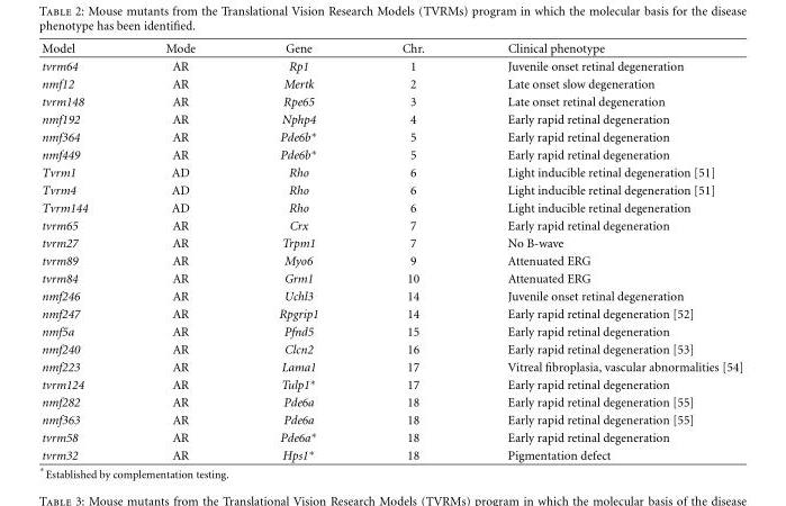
<table><thead><tr><td>Model</td><td>Mode</td><td>Gene</td><td>Chr.</td><td>Clinical phenotype</td></tr></thead><tbody><tr><td>tvrm64</td><td>AR</td><td>Rp1</td><td>1</td><td>Juvenile onset retinal degeneration</td></tr><tr><td>nmf12</td><td>AR</td><td>Mertk</td><td>2</td><td>Late onset slow degeneration</td></tr><tr><td>tvrm148</td><td>AR</td><td>Rpe65</td><td>3</td><td>Late onset retinal degeneration</td></tr><tr><td>nmf192</td><td>AR</td><td>Nphp4</td><td>4</td><td>Early rapid retinal degeneration</td></tr><tr><td>nmf364</td><td>AR</td><td>Pde6b∗</td><td>5</td><td>Early rapid retinal degeneration</td></tr><tr><td>nmf449</td><td>AR</td><td>Pde6b∗</td><td>5</td><td>Early rapid retinal degeneration</td></tr><tr><td>Tvrm1</td><td>AD</td><td>Rho</td><td>6</td><td>Light inducible retinal degeneration [51]</td></tr><tr><td>Tvrm4</td><td>AD</td><td>Rho</td><td>6</td><td>Light inducible retinal degeneration [51]</td></tr><tr><td>Tvrm144</td><td>AD</td><td>Rho</td><td>6</td><td>Light inducible retinal degeneration</td></tr><tr><td>tvrm65</td><td>AR</td><td>Crx</td><td>7</td><td>Early rapid retinal degeneration</td></tr><tr><td>tvrm27</td><td>AR</td><td>Trpm1</td><td>7</td><td>No B-wave</td></tr><tr><td>tvrm89</td><td>AR</td><td>Myo6</td><td>9</td><td>Attenuated ERG</td></tr><tr><td>tvrm84</td><td>AR</td><td>Grm1</td><td>10</td><td>Attenuated ERG</td></tr><tr><td>nmf246</td><td>AR</td><td>Uchl3</td><td>14</td><td>Juvenile onset retinal degeneration</td></tr><tr><td>nmf247</td><td>AR</td><td>Rpgrip1</td><td>14</td><td>Early rapid retinal degeneration [52]</td></tr><tr><td>nmf5a</td><td>AR</td><td>Pfnd5</td><td>15</td><td>Early rapid retinal degeneration</td></tr><tr><td>nmf240</td><td>AR</td><td>Clcn2</td><td>16</td><td>Early rapid retinal degeneration [53]</td></tr><tr><td>nmf223</td><td>AR</td><td>Lama1</td><td>17</td><td>Vitreal fibroplasia, vascular abnormalities [54]</td></tr><tr><td>tvrm124</td><td>AR</td><td>Tulp1∗</td><td>17</td><td>Early rapid retinal degeneration</td></tr><tr><td>nmf282</td><td>AR</td><td>Pde6a</td><td>18</td><td>Early rapid retinal degeneration [55]</td></tr><tr><td>nmf363</td><td>AR</td><td>Pde6a</td><td>18</td><td>Early rapid retinal degeneration [55]</td></tr><tr><td>tvrm58</td><td>AR</td><td>Pde6a∗</td><td>18</td><td>Early rapid retinal degeneration</td></tr><tr><td>tvrm32</td><td>AR</td><td>Hps1∗</td><td>18</td><td>Pigmentation defect</td></tr></tbody></table>